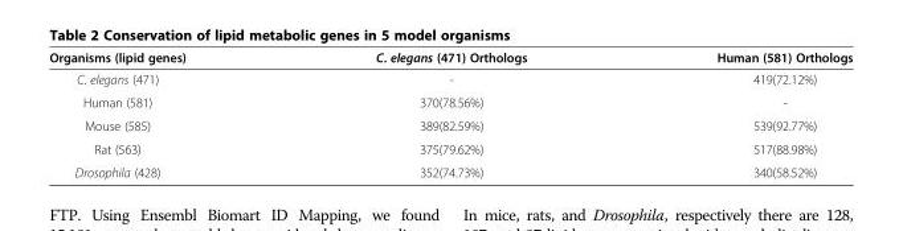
<table><thead><tr><td>Organisms (lipid genes)</td><td>C. elegans (471) Orthologs</td><td>Human (581) Orthologs</td></tr></thead><tbody><tr><td>C. elegans (471)</td><td>-</td><td>419(72.12%)</td></tr><tr><td>Human (581)</td><td>370(78.56%)</td><td>-</td></tr><tr><td>Mouse (585)</td><td>389(82.59%)</td><td>539(92.77%)</td></tr><tr><td>Rat (563)</td><td>375(79.62%)</td><td>517(88.98%)</td></tr><tr><td>Drosophila (428)</td><td>352(74.73%)</td><td>340(58.52%)</td></tr></tbody></table>